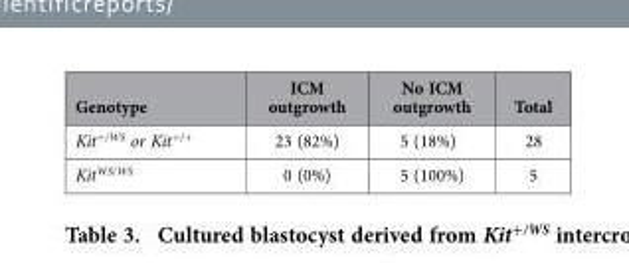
<table><thead><tr><td>Genotype</td><td>ICM outgrowth</td><td>No ICM outgrowth</td><td>Total</td></tr></thead><tbody><tr><td>Kit<sup>+/WS</sup> or Kit<sup>+/+</sup></td><td>23 (82%)</td><td>5 (18%)</td><td>28</td></tr><tr><td>Kit<sup>WS/WS</sup></td><td>0 (0%)</td><td>5 (100%)</td><td>5</td></tr></tbody></table>